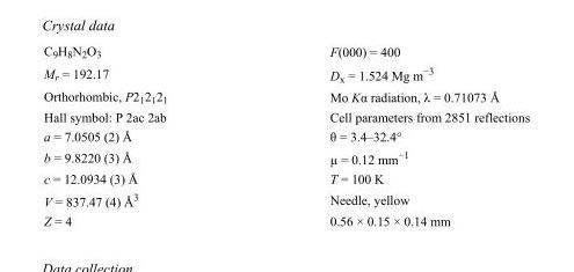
<table><tbody><tr><td>C<sub>9</sub>H<sub>8</sub>N<sub>2</sub>O<sub>3</sub></td><td>F(000) = 400</td></tr><tr><td>M<sub>r</sub> = 192.17</td><td>D<sub>x</sub> = 1.524 Mg m<sup>−3</sup></td></tr><tr><td>Orthorhombic, P2<sub>1</sub>2<sub>1</sub>2<sub>1</sub></td><td>Mo Kα radiation, λ = 0.71073 Å</td></tr><tr><td>Hall symbol: P 2ac 2ab</td><td>Cell parameters from 2851 reflections</td></tr><tr><td>a = 7.0505 (2) Å</td><td>θ = 3.4–32.4°</td></tr><tr><td>b = 9.8220 (3) Å</td><td>µ = 0.12 mm<sup>−1</sup></td></tr><tr><td>c = 12.0934 (3) Å</td><td>T = 100 K</td></tr><tr><td>V = 837.47 (4) Å<sup>3</sup></td><td>Needle, yellow</td></tr><tr><td>Z = 4</td><td>0.56 × 0.15 × 0.14 mm</td></tr></tbody></table>